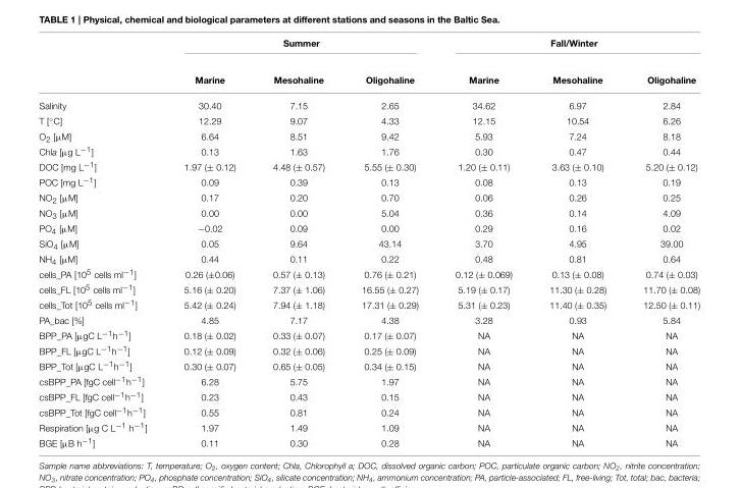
<table><thead><tr><td rowspan="2"></td><td colspan="3">Summer</td><td colspan="3">Fall/Winter</td></tr><tr><td>Marine</td><td>Mesohaline</td><td>Oligohaline</td><td>Marine</td><td>Mesohaline</td><td>Oligohaline</td></tr></thead><tbody><tr><td>Salinity</td><td>30.40</td><td>7.15</td><td>2.65</td><td>34.62</td><td>6.97</td><td>2.84</td></tr><tr><td>T [◦C]</td><td>12.29</td><td>9.07</td><td>4.33</td><td>12.15</td><td>10.54</td><td>6.26</td></tr><tr><td>O<sub>2</sub> [µM]</td><td>6.64</td><td>8.51</td><td>9.42</td><td>5.93</td><td>7.24</td><td>8.18</td></tr><tr><td>Chla [µg L<sup>−1</sup>]</td><td>0.13</td><td>1.63</td><td>1.76</td><td>0.30</td><td>0.47</td><td>0.44</td></tr><tr><td>DOC [mg L<sup>−1</sup>]</td><td>1.97 (± 0.12)</td><td>4.48 (± 0.57)</td><td>5.55 (± 0.30)</td><td>1.20 (± 0.11)</td><td>3.63 (± 0.10)</td><td>5.20 (± 0.12)</td></tr><tr><td>POC [mg L<sup>−1</sup>]</td><td>0.09</td><td>0.39</td><td>0.13</td><td>0.08</td><td>0.13</td><td>0.19</td></tr><tr><td>NO<sub>2</sub> [µM]</td><td>0.17</td><td>0.20</td><td>0.70</td><td>0.06</td><td>0.26</td><td>0.25</td></tr><tr><td>NO<sub>3</sub> [µM]</td><td>0.00</td><td>0.00</td><td>5.04</td><td>0.36</td><td>0.14</td><td>4.09</td></tr><tr><td>PO<sub>4</sub> [µM]</td><td>−0.02</td><td>0.09</td><td>0.00</td><td>0.29</td><td>0.16</td><td>0.02</td></tr><tr><td>SiO<sub>4</sub> [µM]</td><td>0.05</td><td>9.64</td><td>43.14</td><td>3.70</td><td>4.95</td><td>39.00</td></tr><tr><td>NH<sub>4</sub> [µM]</td><td>0.44</td><td>0.11</td><td>0.22</td><td>0.48</td><td>0.81</td><td>0.64</td></tr><tr><td>cells_PA [10<sup>5</sup> cells ml<sup>−1</sup>]</td><td>0.26 (±0.06)</td><td>0.57 (± 0.13)</td><td>0.76 (± 0.21)</td><td>0.12 (± 0.069)</td><td>0.13 (± 0.08)</td><td>0.74 (± 0.03)</td></tr><tr><td>cells_FL [10<sup>5</sup> cells ml<sup>−1</sup>]</td><td>5.16 (± 0.20)</td><td>7.37 (± 1.06)</td><td>16.55 (± 0.27)</td><td>5.19 (± 0.17)</td><td>11.30 (± 0.28)</td><td>11.70 (± 0.08)</td></tr><tr><td>cells_Tot [10<sup>5</sup> cells ml<sup>−1</sup>]</td><td>5.42 (± 0.24)</td><td>7.94 (± 1.18)</td><td>17.31 (± 0.29)</td><td>5.31 (± 0.23)</td><td>11.40 (± 0.35)</td><td>12.50 (± 0.11)</td></tr><tr><td>PA_bac [%]</td><td>4.85</td><td>7.17</td><td>4.38</td><td>3.28</td><td>0.93</td><td>5.84</td></tr><tr><td>BPP_PA [µgC L<sup>−1</sup>h<sup>−1</sup>]</td><td>0.18 (± 0.02)</td><td>0.33 (± 0.07)</td><td>0.17 (± 0.07)</td><td>NA</td><td>NA</td><td>NA</td></tr><tr><td>BPP_FL [µgC L<sup>−1</sup>h<sup>−1</sup>]</td><td>0.12 (± 0.09)</td><td>0.32 (± 0.06)</td><td>0.25 (± 0.09)</td><td>NA</td><td>NA</td><td>NA</td></tr><tr><td>BPP_Tot [µgC L<sup>−1</sup>h<sup>−1</sup>]</td><td>0.30 (± 0.07)</td><td>0.65 (± 0.05)</td><td>0.34 (± 0.15)</td><td>NA</td><td>NA</td><td>NA</td></tr><tr><td>csBPP_PA [fgC cell<sup>−1</sup>h<sup>−1</sup>]</td><td>6.28</td><td>5.75</td><td>1.97</td><td>NA</td><td>NA</td><td>NA</td></tr><tr><td>csBPP_FL [fgC cell<sup>−1</sup>h<sup>−1</sup>]</td><td>0.23</td><td>0.43</td><td>0.15</td><td>NA</td><td>NA</td><td>NA</td></tr><tr><td>csBPP_Tot [fgC cell<sup>−1</sup>h<sup>−1</sup>]</td><td>0.55</td><td>0.81</td><td>0.24</td><td>NA</td><td>NA</td><td>NA</td></tr><tr><td>Respiration [µg C L<sup>−1</sup> h<sup>−1</sup>]</td><td>1.97</td><td>1.49</td><td>1.09</td><td>NA</td><td>NA</td><td>NA</td></tr><tr><td>BGE [µB h<sup>−1</sup>]</td><td>0.11</td><td>0.30</td><td>0.28</td><td>NA</td><td>NA</td><td>NA</td></tr></tbody></table>